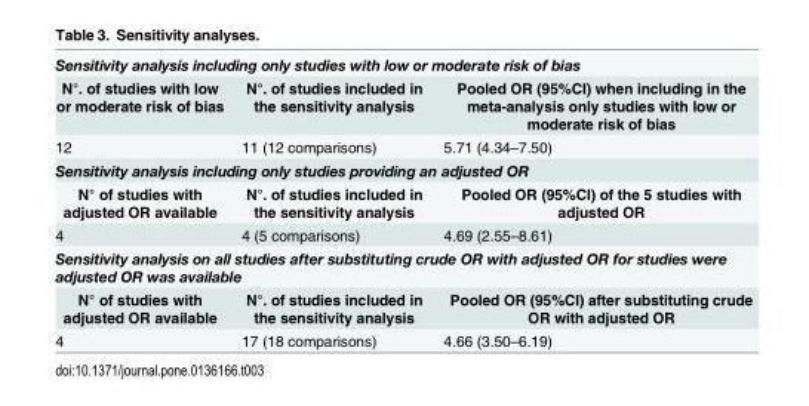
<table><tbody><tr><td colspan="3">Sensitivity analysis including only studies with low or moderate risk of bias</td></tr><tr><td>N°. of studies with low or moderate risk of bias</td><td>N°. of studies included in the sensitivity analysis</td><td>Pooled OR (95%CI) when including in the meta-analysis only studies with low or moderate risk of bias</td></tr><tr><td>12</td><td>11 (12 comparisons)</td><td>5.71 (4.34–7.50)</td></tr><tr><td colspan="3">Sensitivity analysis including only studies providing an adjusted OR</td></tr><tr><td>N° of studies with adjusted OR available</td><td>N°. of studies included in the sensitivity analysis</td><td>Pooled OR (95%CI) of the 5 studies with adjusted OR</td></tr><tr><td>4</td><td>4 (5 comparisons)</td><td>4.69 (2.55–8.61)</td></tr><tr><td colspan="3">Sensitivity analysis on all studies after substituting crude OR with adjusted OR for studies were adjusted OR was available</td></tr><tr><td>N° of studies with adjusted OR available</td><td>N°. of studies included in the sensitivity analysis</td><td>Pooled OR (95%CI) after substituting crude OR with adjusted OR</td></tr><tr><td>4</td><td>17 (18 comparisons)</td><td>4.66 (3.50–6.19)</td></tr></tbody></table>